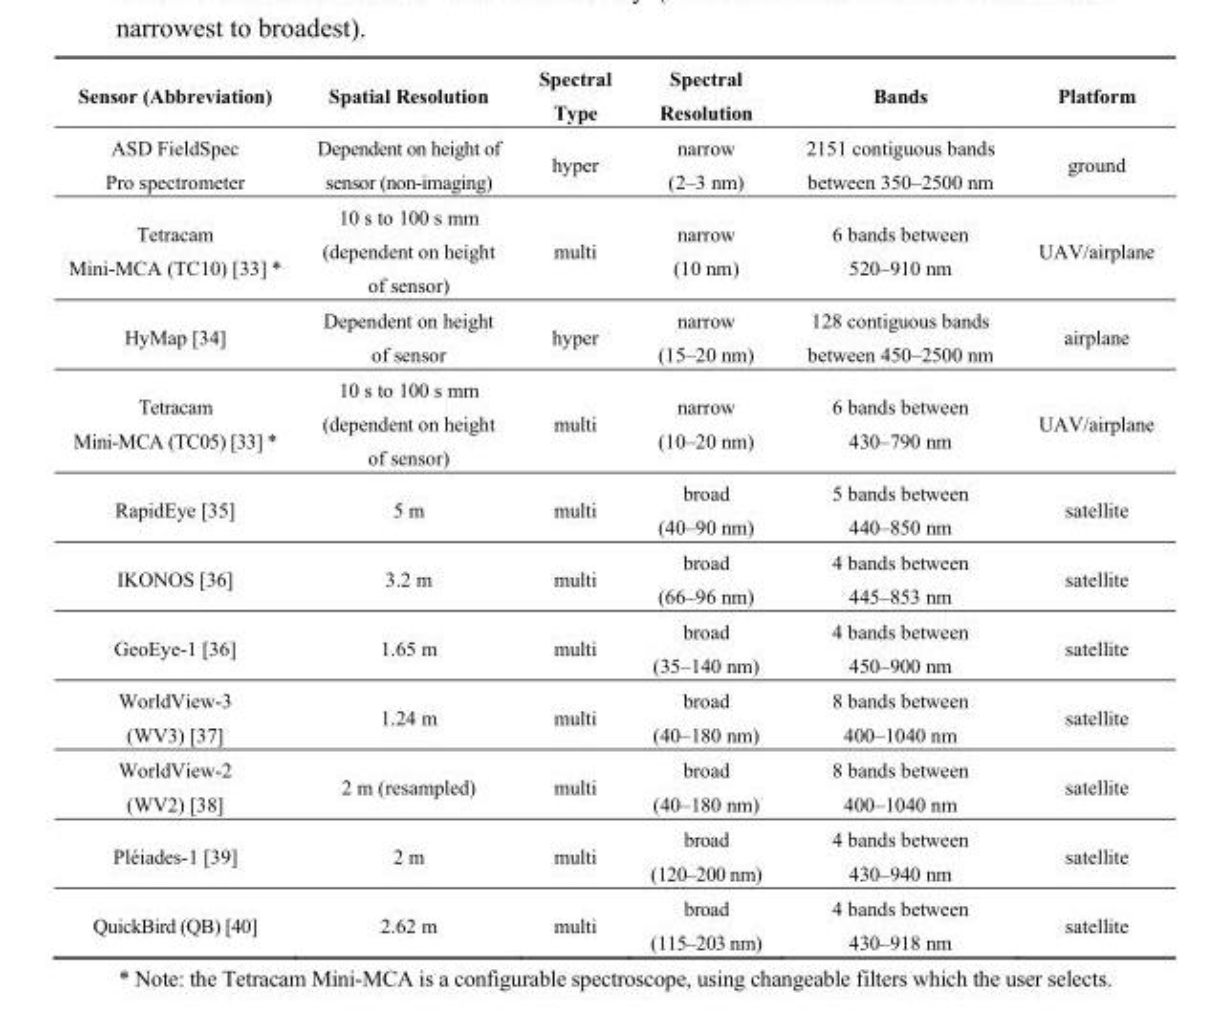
<table><thead><tr><td>Sensor (Abbreviation)</td><td>Spatial Resolution</td><td>Spectral Type</td><td>Spectral Resolution</td><td>Bands</td><td>Platform</td></tr></thead><tbody><tr><td>ASD FieldSpec Pro spectrometer</td><td>Dependent on height of sensor (non-imaging)</td><td>hyper</td><td>narrow (2–3 nm)</td><td>2151 contiguous bands between 350–2500 nm</td><td>ground</td></tr><tr><td>Tetracam Mini-MCA (TC10) [33] *</td><td>10 s to 100 s mm (dependent on height of sensor)</td><td>multi</td><td>narrow (10 nm)</td><td>6 bands between 520–910 nm</td><td>UAV/airplane</td></tr><tr><td>HyMap [34]</td><td>Dependent on height of sensor</td><td>hyper</td><td>narrow (15–20 nm)</td><td>128 contiguous bands between 450–2500 nm</td><td>airplane</td></tr><tr><td>Tetracam Mini-MCA (TC05) [33] *</td><td>10 s to 100 s mm (dependent on height of sensor)</td><td>multi</td><td>narrow (10–20 nm)</td><td>6 bands between 430–790 nm</td><td>UAV/airplane</td></tr><tr><td>RapidEye [35]</td><td>5 m</td><td>multi</td><td>broad (40–90 nm)</td><td>5 bands between 440–850 nm</td><td>satellite</td></tr><tr><td>IKONOS [36]</td><td>3.2 m</td><td>multi</td><td>broad (66–96 nm)</td><td>4 bands between 445–853 nm</td><td>satellite</td></tr><tr><td>GeoEye-1 [36]</td><td>1.65 m</td><td>multi</td><td>broad (35–140 nm)</td><td>4 bands between 450–900 nm</td><td>satellite</td></tr><tr><td>WorldView-3 (WV3) [37]</td><td>1.24 m</td><td>multi</td><td>broad (40–180 nm)</td><td>8 bands between 400–1040 nm</td><td>satellite</td></tr><tr><td>WorldView-2 (WV2) [38]</td><td>2 m (resampled)</td><td>multi</td><td>broad (40–180 nm)</td><td>8 bands between 400–1040 nm</td><td>satellite</td></tr><tr><td>Pléiades-1 [39]</td><td>2 m</td><td>multi</td><td>broad (120–200 nm)</td><td>4 bands between 430–940 nm</td><td>satellite</td></tr><tr><td>QuickBird (QB) [40]</td><td>2.62 m</td><td>multi</td><td>broad (115–203 nm)</td><td>4 bands between 430–918 nm</td><td>satellite</td></tr></tbody></table>